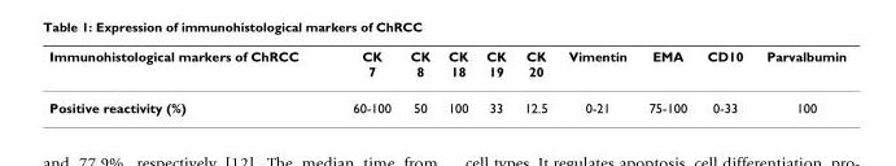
<table><thead><tr><td>Immunohistological markers of ChRCC</td><td>CK 7</td><td>CK 8</td><td>CK 18</td><td>CK 19</td><td>CK 20</td><td>Vimentin</td><td>EMA</td><td>CD10</td><td>Parvalbumin</td></tr></thead><tbody><tr><td>Positive reactivity (%)</td><td>60-100</td><td>50</td><td>100</td><td>33</td><td>12.5</td><td>0-21</td><td>75-100</td><td>0-33</td><td>100</td></tr></tbody></table>